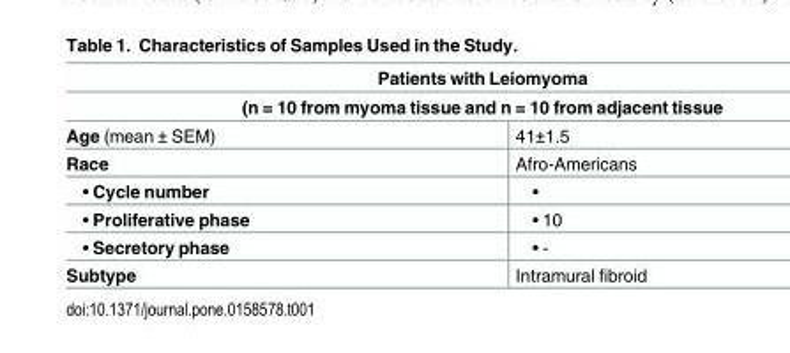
<table><thead><tr><td rowspan="2" colspan="2">Patients with Leiomyoma (n = 10 from myoma tissue and n = 10 from adjacent tissue</td></tr><tr></tr><tr><td>Age (mean ± SEM)</td><td>41±1.5</td></tr></thead><tbody><tr><td>Race</td><td>Afro-Americans</td></tr><tr><td>• Cycle number</td><td>•</td></tr><tr><td>• Proliferative phase</td><td>• 10</td></tr><tr><td>• Secretory phase</td><td>• -</td></tr><tr><td>Subtype</td><td>Intramural fibroid</td></tr></tbody></table>